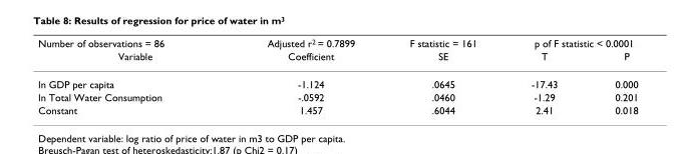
<table><thead><tr><td rowspan="2">Number of observations = 86 Variable</td><td rowspan="2">Adjusted r<sup>2</sup> = 0.7899 Coefficient</td><td rowspan="2">F statistic = 161 SE</td><td colspan="2">p of F statistic &lt; 0.0001</td></tr><tr><td>T</td><td>P</td></tr></thead><tbody><tr><td>ln GDP per capita</td><td>-1.124</td><td>.0645</td><td>-17.43</td><td>0.000</td></tr><tr><td>ln Total Water Consumption</td><td>-.0592</td><td>.0460</td><td>-1.29</td><td>0.201</td></tr><tr><td>Constant</td><td>1.457</td><td>.6044</td><td>2.41</td><td>0.018</td></tr></tbody></table>